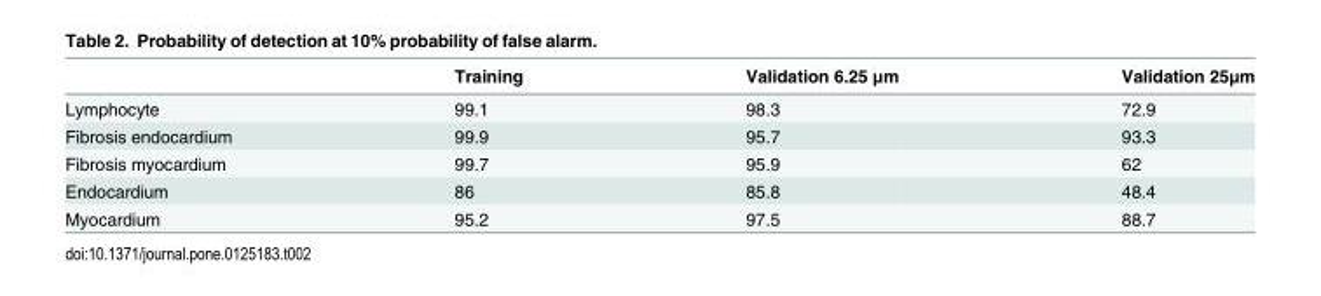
<table><thead><tr><td></td><td>Training</td><td>Validation 6.25 μm</td><td>Validation 25μm</td></tr></thead><tbody><tr><td>Lymphocyte</td><td>99.1</td><td>98.3</td><td>72.9</td></tr><tr><td>Fibrosis endocardium</td><td>99.9</td><td>95.7</td><td>93.3</td></tr><tr><td>Fibrosis myocardium</td><td>99.7</td><td>95.9</td><td>62</td></tr><tr><td>Endocardium</td><td>86</td><td>85.8</td><td>48.4</td></tr><tr><td>Myocardium</td><td>95.2</td><td>97.5</td><td>88.7</td></tr></tbody></table>